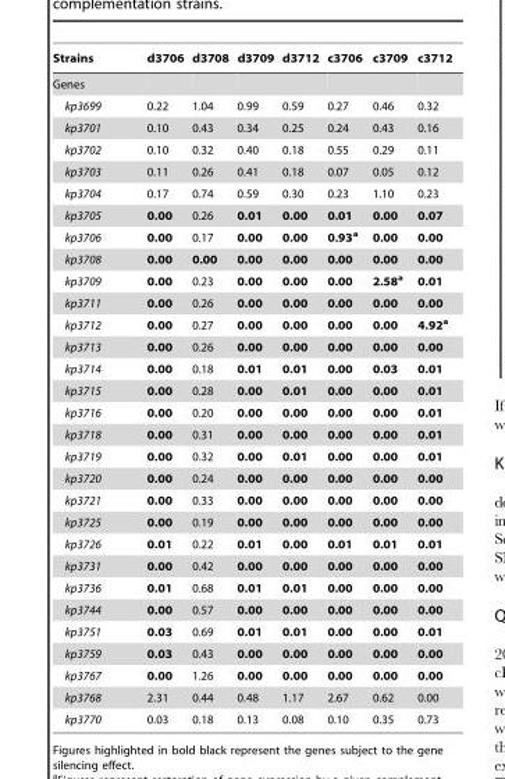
<table><thead><tr><td>Strains</td><td>d3706</td><td>d3708</td><td>d3709</td><td>d3712</td><td>c3706</td><td>c3709</td><td>c3712</td></tr></thead><tbody><tr><td colspan="8">Genes</td></tr><tr><td>kp3699</td><td>0.22</td><td>1.04</td><td>0.99</td><td>0.59</td><td>0.27</td><td>0.46</td><td>0.32</td></tr><tr><td>kp3701</td><td>0.10</td><td>0.43</td><td>0.34</td><td>0.25</td><td>0.24</td><td>0.43</td><td>0.16</td></tr><tr><td>kp3702</td><td>0.10</td><td>0.32</td><td>0.40</td><td>0.18</td><td>0.55</td><td>0.29</td><td>0.11</td></tr><tr><td>kp3703</td><td>0.11</td><td>0.26</td><td>0.41</td><td>0.18</td><td>0.07</td><td>0.05</td><td>0.12</td></tr><tr><td>kp3704</td><td>0.17</td><td>0.74</td><td>0.59</td><td>0.30</td><td>0.23</td><td>1.10</td><td>0.23</td></tr><tr><td>kp3705</td><td>0.00</td><td>0.26</td><td>0.01</td><td>0.00</td><td>0.01</td><td>0.00</td><td>0.07</td></tr><tr><td>kp3706</td><td>0.00</td><td>0.17</td><td>0.00</td><td>0.00</td><td>0.93a</td><td>0.00</td><td>0.00</td></tr><tr><td>kp3708</td><td>0.00</td><td>0.00</td><td>0.00</td><td>0.00</td><td>0.00</td><td>0.00</td><td>0.00</td></tr><tr><td>kp3709</td><td>0.00</td><td>0.23</td><td>0.00</td><td>0.00</td><td>0.00</td><td>2.58a</td><td>0.01</td></tr><tr><td>kp3711</td><td>0.00</td><td>0.26</td><td>0.00</td><td>0.00</td><td>0.00</td><td>0.00</td><td>0.00</td></tr><tr><td>kp3712</td><td>0.00</td><td>0.27</td><td>0.00</td><td>0.00</td><td>0.00</td><td>0.00</td><td>4.92a</td></tr><tr><td>kp3713</td><td>0.00</td><td>0.26</td><td>0.00</td><td>0.00</td><td>0.00</td><td>0.00</td><td>0.00</td></tr><tr><td>kp3714</td><td>0.00</td><td>0.18</td><td>0.01</td><td>0.01</td><td>0.00</td><td>0.03</td><td>0.01</td></tr><tr><td>kp3715</td><td>0.00</td><td>0.28</td><td>0.00</td><td>0.01</td><td>0.00</td><td>0.00</td><td>0.01</td></tr><tr><td>kp3716</td><td>0.00</td><td>0.20</td><td>0.00</td><td>0.00</td><td>0.00</td><td>0.00</td><td>0.01</td></tr><tr><td>kp3718</td><td>0.00</td><td>0.31</td><td>0.00</td><td>0.00</td><td>0.00</td><td>0.00</td><td>0.01</td></tr><tr><td>kp3719</td><td>0.00</td><td>0.32</td><td>0.00</td><td>0.01</td><td>0.00</td><td>0.00</td><td>0.01</td></tr><tr><td>kp3720</td><td>0.00</td><td>0.24</td><td>0.00</td><td>0.00</td><td>0.00</td><td>0.00</td><td>0.00</td></tr><tr><td>kp3721</td><td>0.00</td><td>0.33</td><td>0.00</td><td>0.00</td><td>0.00</td><td>0.00</td><td>0.00</td></tr><tr><td>kp3725</td><td>0.00</td><td>0.19</td><td>0.00</td><td>0.00</td><td>0.00</td><td>0.00</td><td>0.00</td></tr><tr><td>kp3726</td><td>0.01</td><td>0.22</td><td>0.01</td><td>0.00</td><td>0.01</td><td>0.01</td><td>0.01</td></tr><tr><td>kp3731</td><td>0.00</td><td>0.42</td><td>0.00</td><td>0.00</td><td>0.00</td><td>0.00</td><td>0.00</td></tr><tr><td>kp3736</td><td>0.01</td><td>0.68</td><td>0.01</td><td>0.01</td><td>0.00</td><td>0.00</td><td>0.00</td></tr><tr><td>kp3744</td><td>0.00</td><td>0.57</td><td>0.00</td><td>0.00</td><td>0.00</td><td>0.00</td><td>0.00</td></tr><tr><td>kp3751</td><td>0.03</td><td>0.69</td><td>0.01</td><td>0.01</td><td>0.00</td><td>0.00</td><td>0.01</td></tr><tr><td>kp3759</td><td>0.03</td><td>0.43</td><td>0.00</td><td>0.00</td><td>0.00</td><td>0.00</td><td>0.00</td></tr><tr><td>kp3767</td><td>0.00</td><td>1.26</td><td>0.00</td><td>0.00</td><td>0.00</td><td>0.00</td><td>0.00</td></tr><tr><td>kp3768</td><td>2.31</td><td>0.44</td><td>0.48</td><td>1.17</td><td>2.67</td><td>0.62</td><td>0.00</td></tr><tr><td>kp3770</td><td>0.03</td><td>0.18</td><td>0.13</td><td>0.08</td><td>0.10</td><td>0.35</td><td>0.73</td></tr></tbody></table>